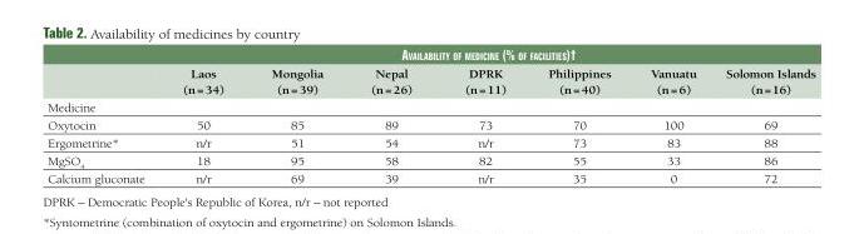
<table><thead><tr><td rowspan="2"></td><td colspan="7">availability of medicine (% of facilities)†</td></tr><tr><td>Laos (n = 34)</td><td>Mongolia (n = 39)</td><td>Nepal (n = 26)</td><td>DPRK (n = 11)</td><td>Philippines (n = 40)</td><td>Vanuatu (n = 6)</td><td>Solomon Islands (n = 16)</td></tr></thead><tbody><tr><td colspan="8">Medicine</td></tr><tr><td>Oxytocin</td><td>50</td><td>85</td><td>89</td><td>73</td><td>70</td><td>100</td><td>69</td></tr><tr><td>Ergometrine*</td><td>n/r</td><td>51</td><td>54</td><td>n/r</td><td>73</td><td>83</td><td>88</td></tr><tr><td>MgSO<sub>4</sub></td><td>18</td><td>95</td><td>58</td><td>82</td><td>55</td><td>33</td><td>86</td></tr><tr><td>Calcium gluconate</td><td>n/r</td><td>69</td><td>39</td><td>n/r</td><td>35</td><td>0</td><td>72</td></tr></tbody></table>